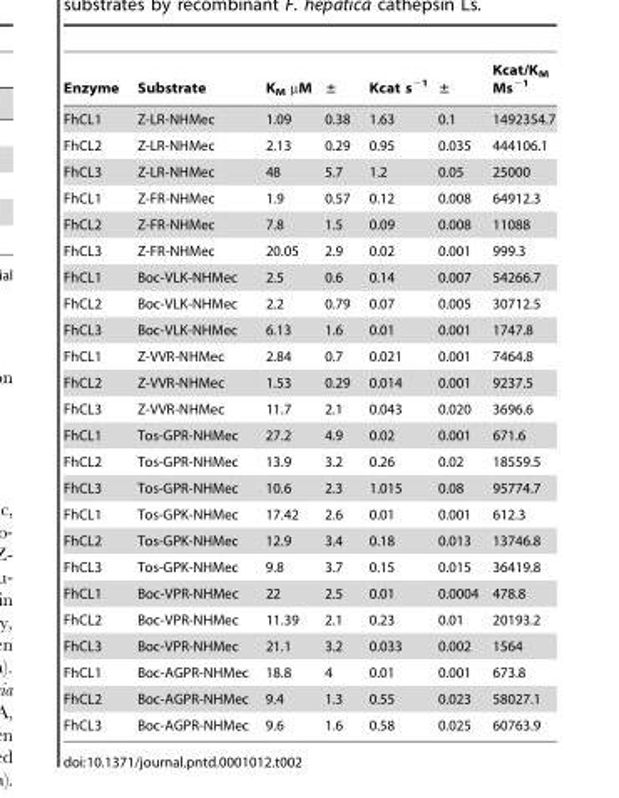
<table><thead><tr><td>Enzyme</td><td>Substrate</td><td>K<sub>M</sub> µM</td><td>±</td><td>Kcat s<sup>−1</sup></td><td>±</td><td>Kcat/K<sub>M</sub> Ms<sup>−1</sup></td></tr></thead><tbody><tr><td>FhCL1</td><td>Z-LR-NHMec</td><td>1.09</td><td>0.38</td><td>1.63</td><td>0.1</td><td>1492354.7</td></tr><tr><td>FhCL2</td><td>Z-LR-NHMec</td><td>2.13</td><td>0.29</td><td>0.95</td><td>0.035</td><td>444106.1</td></tr><tr><td>FhCL3</td><td>Z-LR-NHMec</td><td>48</td><td>5.7</td><td>1.2</td><td>0.05</td><td>25000</td></tr><tr><td>FhCL1</td><td>Z-FR-NHMec</td><td>1.9</td><td>0.57</td><td>0.12</td><td>0.008</td><td>64912.3</td></tr><tr><td>FhCL2</td><td>Z-FR-NHMec</td><td>7.8</td><td>1.5</td><td>0.09</td><td>0.008</td><td>11088</td></tr><tr><td>FhCL3</td><td>Z-FR-NHMec</td><td>20.05</td><td>2.9</td><td>0.02</td><td>0.001</td><td>999.3</td></tr><tr><td>FhCL1</td><td>Boc-VLK-NHMec</td><td>2.5</td><td>0.6</td><td>0.14</td><td>0.007</td><td>54266.7</td></tr><tr><td>FhCL2</td><td>Boc-VLK-NHMec</td><td>2.2</td><td>0.79</td><td>0.07</td><td>0.005</td><td>30712.5</td></tr><tr><td>FhCL3</td><td>Boc-VLK-NHMec</td><td>6.13</td><td>1.6</td><td>0.01</td><td>0.001</td><td>1747.8</td></tr><tr><td>FhCL1</td><td>Z-VVR-NHMec</td><td>2.84</td><td>0.7</td><td>0.021</td><td>0.001</td><td>7464.8</td></tr><tr><td>FhCL2</td><td>Z-VVR-NHMec</td><td>1.53</td><td>0.29</td><td>0.014</td><td>0.001</td><td>9237.5</td></tr><tr><td>FhCL3</td><td>Z-VVR-NHMec</td><td>11.7</td><td>2.1</td><td>0.043</td><td>0.020</td><td>3696.6</td></tr><tr><td>FhCL1</td><td>Tos-GPR-NHMec</td><td>27.2</td><td>4.9</td><td>0.02</td><td>0.001</td><td>671.6</td></tr><tr><td>FhCL2</td><td>Tos-GPR-NHMec</td><td>13.9</td><td>3.2</td><td>0.26</td><td>0.02</td><td>18559.5</td></tr><tr><td>FhCL3</td><td>Tos-GPR-NHMec</td><td>10.6</td><td>2.3</td><td>1.015</td><td>0.08</td><td>95774.7</td></tr><tr><td>FhCL1</td><td>Tos-GPK-NHMec</td><td>17.42</td><td>2.6</td><td>0.01</td><td>0.001</td><td>612.3</td></tr><tr><td>FhCL2</td><td>Tos-GPK-NHMec</td><td>12.9</td><td>3.4</td><td>0.18</td><td>0.013</td><td>13746.8</td></tr><tr><td>FhCL3</td><td>Tos-GPK-NHMec</td><td>9.8</td><td>3.7</td><td>0.15</td><td>0.015</td><td>36419.8</td></tr><tr><td>FhCL1</td><td>Boc-VPR-NHMec</td><td>22</td><td>2.5</td><td>0.01</td><td>0.0004</td><td>478.8</td></tr><tr><td>FhCL2</td><td>Boc-VPR-NHMec</td><td>11.39</td><td>2.1</td><td>0.23</td><td>0.01</td><td>20193.2</td></tr><tr><td>FhCL3</td><td>Boc-VPR-NHMec</td><td>21.1</td><td>3.2</td><td>0.033</td><td>0.002</td><td>1564</td></tr><tr><td>FhCL1</td><td>Boc-AGPR-NHMec</td><td>18.8</td><td>4</td><td>0.01</td><td>0.001</td><td>673.8</td></tr><tr><td>FhCL2</td><td>Boc-AGPR-NHMec</td><td>9.4</td><td>1.3</td><td>0.55</td><td>0.023</td><td>58027.1</td></tr><tr><td>FhCL3</td><td>Boc-AGPR-NHMec</td><td>9.6</td><td>1.6</td><td>0.58</td><td>0.025</td><td>60763.9</td></tr></tbody></table>